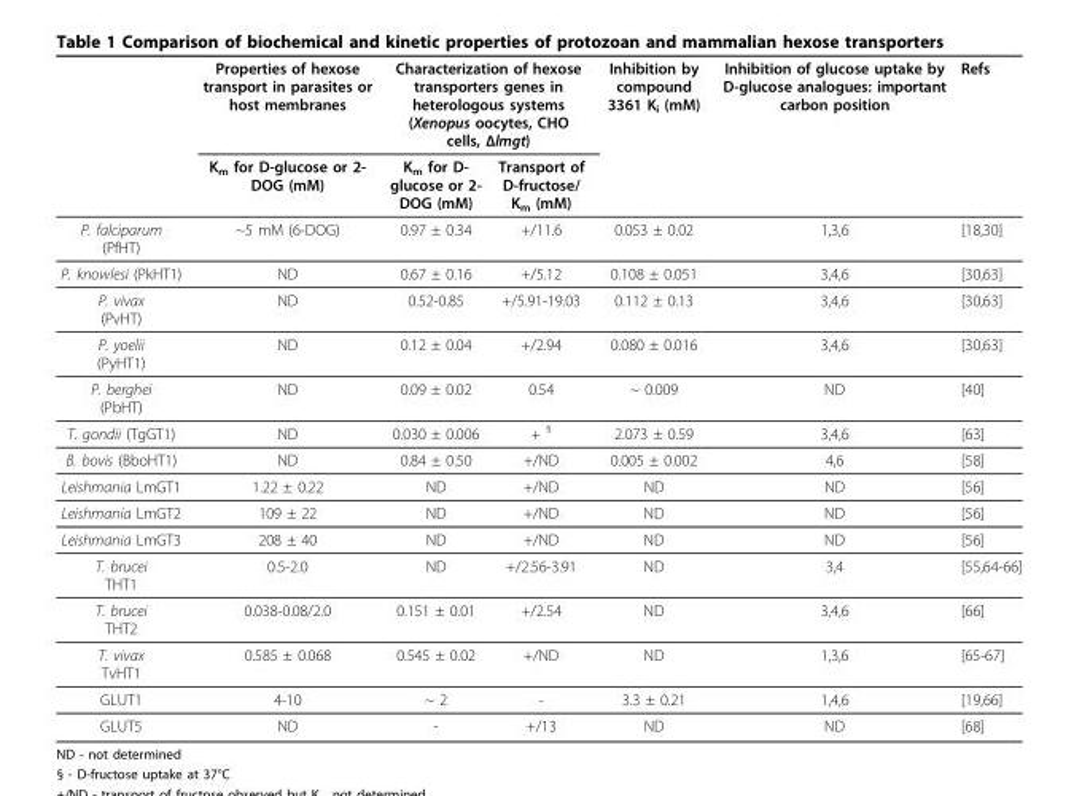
<table><thead><tr><td rowspan="2"></td><td rowspan="2">Properties of hexose transport in parasites or host membranes K<sub>m</sub> for D-glucose or 2- DOG (mM)</td><td colspan="2">Characterization of hexose transporters genes in heterologous systems (Xenopus oocytes, CHO cells, Δlmgt)</td><td rowspan="2">Inhibition by compound 3361 K<sub>i</sub> (mM)</td><td rowspan="2">Inhibition of glucose uptake by D-glucose analogues: important carbon position</td><td rowspan="2">Refs</td></tr><tr><td>K<sub>m</sub> for D- glucose or 2- DOG (mM)</td><td>Transport of D-fructose/ K<sub>m</sub> (mM)</td></tr></thead><tbody><tr><td>P. falciparum (PfHT)</td><td>~5 mM (6-DOG)</td><td>0.97 ± 0.34</td><td>+/11.6</td><td>0.053 ± 0.02</td><td>1,3,6</td><td>[18,30]</td></tr><tr><td>P. knowlesi (PkHT1)</td><td>ND</td><td>0.67 ± 0.16</td><td>+/5.12</td><td>0.108 ± 0.051</td><td>3,4,6</td><td>[30,63]</td></tr><tr><td>P. vivax (PvHT)</td><td>ND</td><td>0.52-0.85</td><td>+/5.91-19.03</td><td>0.112 ± 0.13</td><td>3,4,6</td><td>[30,63]</td></tr><tr><td>P. yoelii (PyHT1)</td><td>ND</td><td>0.12 ± 0.04</td><td>+/2.94</td><td>0.080 ± 0.016</td><td>3,4,6</td><td>[30,63]</td></tr><tr><td>P. berghei (PbHT)</td><td>ND</td><td>0.09 ± 0.02</td><td>0.54</td><td>~ 0.009</td><td>ND</td><td>[40]</td></tr><tr><td>T. gondii (TgGT1)</td><td>ND</td><td>0.030 ± 0.006</td><td>+ <sup>§</sup></td><td>2.073 ± 0.59</td><td>3,4,6</td><td>[63]</td></tr><tr><td>B. bovis (BboHT1)</td><td>ND</td><td>0.84 ± 0.50</td><td>+/ND</td><td>0.005 ± 0.002</td><td>4,6</td><td>[58]</td></tr><tr><td>Leishmania LmGT1</td><td>1.22 ± 0.22</td><td>ND</td><td>+/ND</td><td>ND</td><td>ND</td><td>[56]</td></tr><tr><td>Leishmania LmGT2</td><td>109 ± 22</td><td>ND</td><td>+/ND</td><td>ND</td><td>ND</td><td>[56]</td></tr><tr><td>Leishmania LmGT3</td><td>208 ± 40</td><td>ND</td><td>+/ND</td><td>ND</td><td>ND</td><td>[56]</td></tr><tr><td>T. brucei THT1</td><td>0.5-2.0</td><td>ND</td><td>+/2.56-3.91</td><td>ND</td><td>3,4</td><td>[55,64-66]</td></tr><tr><td>T. brucei THT2</td><td>0.038-0.08/2.0</td><td>0.151 ± 0.01</td><td>+/2.54</td><td>ND</td><td>3,4,6</td><td>[66]</td></tr><tr><td>T. vivax TvHT1</td><td>0.585 ± 0.068</td><td>0.545 ± 0.02</td><td>+/ND</td><td>ND</td><td>1,3,6</td><td>[65-67]</td></tr><tr><td>GLUT1</td><td>4-10</td><td>~ 2</td><td>-</td><td>3.3 ± 0.21</td><td>1,4,6</td><td>[19,66]</td></tr><tr><td>GLUT5</td><td>ND</td><td>-</td><td>+/13</td><td>ND</td><td>ND</td><td>[68]</td></tr></tbody></table>